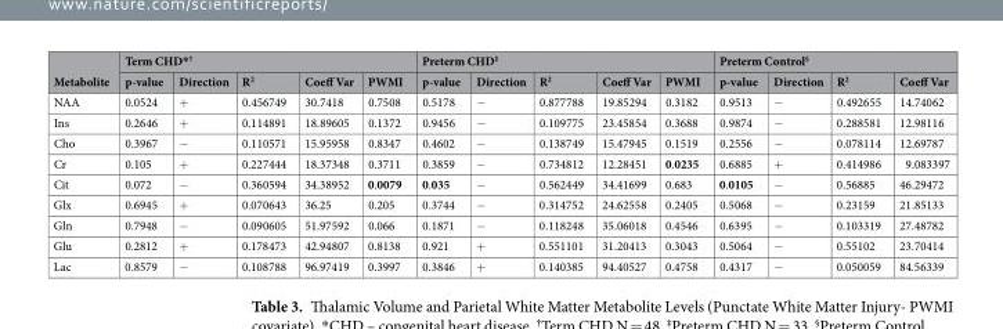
<table><thead><tr><td rowspan="2">Metabolite</td><td colspan="5">Term CHD*<sup>†</sup></td><td colspan="5">Preterm CHD<sup>‡</sup></td><td colspan="4">Preterm Control<sup>§</sup></td></tr><tr><td>p-value</td><td>Direction</td><td>R<sup>2</sup></td><td>Coeff Var</td><td>PWMI</td><td>p-value</td><td>Direction</td><td>R<sup>2</sup></td><td>Coeff Var</td><td>PWMI</td><td>p-value</td><td>Direction</td><td>R<sup>2</sup></td><td>Coeff Var</td></tr></thead><tbody><tr><td>NAA</td><td>0.0524</td><td>+</td><td>0.456749</td><td>30.7418</td><td>0.7508</td><td>0.5178</td><td>−</td><td>0.877788</td><td>19.85294</td><td>0.3182</td><td>0.9513</td><td>−</td><td>0.492655</td><td>14.74062</td></tr><tr><td>Ins</td><td>0.2646</td><td>+</td><td>0.114891</td><td>18.89605</td><td>0.1372</td><td>0.9456</td><td>−</td><td>0.109775</td><td>23.45854</td><td>0.3688</td><td>0.9874</td><td>−</td><td>0.288581</td><td>12.98116</td></tr><tr><td>Cho</td><td>0.3967</td><td>−</td><td>0.110571</td><td>15.95958</td><td>0.8347</td><td>0.4602</td><td>−</td><td>0.138749</td><td>15.47945</td><td>0.1519</td><td>0.2556</td><td>−</td><td>0.078114</td><td>12.69787</td></tr><tr><td>Cr</td><td>0.105</td><td>+</td><td>0.227444</td><td>18.37348</td><td>0.3711</td><td>0.3859</td><td>−</td><td>0.734812</td><td>12.28451</td><td>0.0235</td><td>0.6885</td><td>+</td><td>0.414986</td><td>9.083397</td></tr><tr><td>Cit</td><td>0.072</td><td>−</td><td>0.360594</td><td>34.38952</td><td>0.0079</td><td>0.035</td><td>−</td><td>0.562449</td><td>34.41699</td><td>0.683</td><td>0.0105</td><td>−</td><td>0.56885</td><td>46.29472</td></tr><tr><td>Glx</td><td>0.6945</td><td>+</td><td>0.070643</td><td>36.25</td><td>0.205</td><td>0.3744</td><td>−</td><td>0.314752</td><td>24.62558</td><td>0.2405</td><td>0.5068</td><td>−</td><td>0.23159</td><td>21.85133</td></tr><tr><td>Gln</td><td>0.7948</td><td>−</td><td>0.090605</td><td>51.97592</td><td>0.066</td><td>0.1871</td><td>−</td><td>0.118248</td><td>35.06018</td><td>0.4546</td><td>0.6395</td><td>−</td><td>0.103319</td><td>27.48782</td></tr><tr><td>Glu</td><td>0.2812</td><td>+</td><td>0.178473</td><td>42.94807</td><td>0.8138</td><td>0.921</td><td>+</td><td>0.551101</td><td>31.20413</td><td>0.3043</td><td>0.5064</td><td>−</td><td>0.55102</td><td>23.70414</td></tr><tr><td>Lac</td><td>0.8579</td><td>−</td><td>0.108788</td><td>96.97419</td><td>0.3997</td><td>0.3846</td><td>+</td><td>0.140385</td><td>94.40527</td><td>0.4758</td><td>0.4317</td><td>−</td><td>0.050059</td><td>84.56339</td></tr></tbody></table>